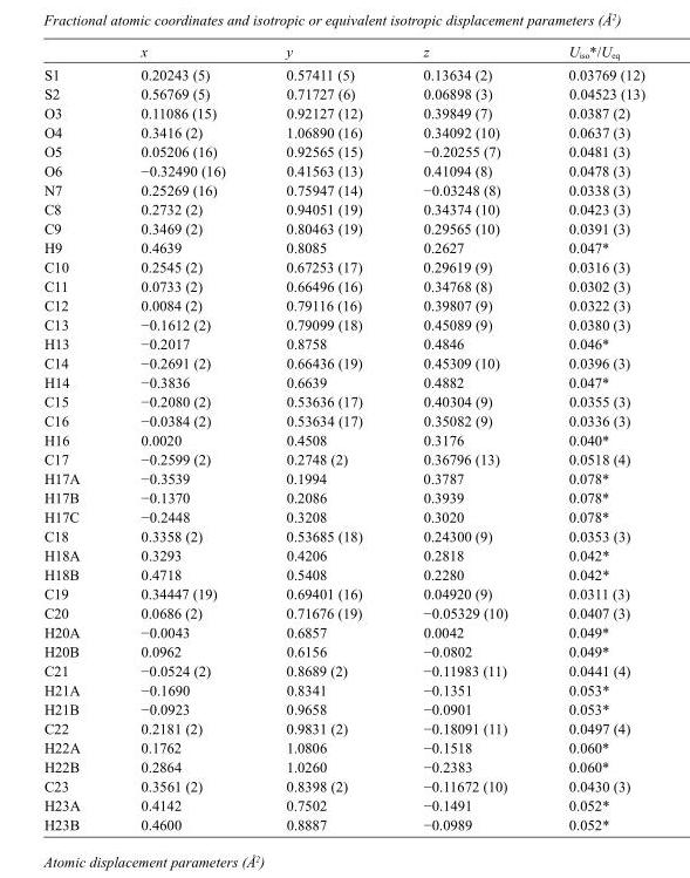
<table><thead><tr><td></td><td>x</td><td>y</td><td>z</td><td>U<sub>iso</sub>*/U<sub>eq</sub></td></tr></thead><tbody><tr><td>S1</td><td>0.20243 (5)</td><td>0.57411 (5)</td><td>0.13634 (2)</td><td>0.03769 (12)</td></tr><tr><td>S2</td><td>0.56769 (5)</td><td>0.71727 (6)</td><td>0.06898 (3)</td><td>0.04523 (13)</td></tr><tr><td>O3</td><td>0.11086 (15)</td><td>0.92127 (12)</td><td>0.39849 (7)</td><td>0.0387 (2)</td></tr><tr><td>O4</td><td>0.3416 (2)</td><td>1.06890 (16)</td><td>0.34092 (10)</td><td>0.0637 (3)</td></tr><tr><td>O5</td><td>0.05206 (16)</td><td>0.92565 (15)</td><td>−0.20255 (7)</td><td>0.0481 (3)</td></tr><tr><td>O6</td><td>−0.32490 (16)</td><td>0.41563 (13)</td><td>0.41094 (8)</td><td>0.0478 (3)</td></tr><tr><td>N7</td><td>0.25269 (16)</td><td>0.75947 (14)</td><td>−0.03248 (8)</td><td>0.0338 (3)</td></tr><tr><td>C8</td><td>0.2732 (2)</td><td>0.94051 (19)</td><td>0.34374 (10)</td><td>0.0423 (3)</td></tr><tr><td>C9</td><td>0.3469 (2)</td><td>0.80463 (19)</td><td>0.29565 (10)</td><td>0.0391 (3)</td></tr><tr><td>H9</td><td>0.4639</td><td>0.8085</td><td>0.2627</td><td>0.047*</td></tr><tr><td>C10</td><td>0.2545 (2)</td><td>0.67253 (17)</td><td>0.29619 (9)</td><td>0.0316 (3)</td></tr><tr><td>C11</td><td>0.0733 (2)</td><td>0.66496 (16)</td><td>0.34768 (8)</td><td>0.0302 (3)</td></tr><tr><td>C12</td><td>0.0084 (2)</td><td>0.79116 (16)</td><td>0.39807 (9)</td><td>0.0322 (3)</td></tr><tr><td>C13</td><td>−0.1612 (2)</td><td>0.79099 (18)</td><td>0.45089 (9)</td><td>0.0380 (3)</td></tr><tr><td>H13</td><td>−0.2017</td><td>0.8758</td><td>0.4846</td><td>0.046*</td></tr><tr><td>C14</td><td>−0.2691 (2)</td><td>0.66436 (19)</td><td>0.45309 (10)</td><td>0.0396 (3)</td></tr><tr><td>H14</td><td>−0.3836</td><td>0.6639</td><td>0.4882</td><td>0.047*</td></tr><tr><td>C15</td><td>−0.2080 (2)</td><td>0.53636 (17)</td><td>0.40304 (9)</td><td>0.0355 (3)</td></tr><tr><td>C16</td><td>−0.0384 (2)</td><td>0.53634 (17)</td><td>0.35082 (9)</td><td>0.0336 (3)</td></tr><tr><td>H16</td><td>0.0020</td><td>0.4508</td><td>0.3176</td><td>0.040*</td></tr><tr><td>C17</td><td>−0.2599 (2)</td><td>0.2748 (2)</td><td>0.36796 (13)</td><td>0.0518 (4)</td></tr><tr><td>H17A</td><td>−0.3539</td><td>0.1994</td><td>0.3787</td><td>0.078*</td></tr><tr><td>H17B</td><td>−0.1370</td><td>0.2086</td><td>0.3939</td><td>0.078*</td></tr><tr><td>H17C</td><td>−0.2448</td><td>0.3208</td><td>0.3020</td><td>0.078*</td></tr><tr><td>C18</td><td>0.3358 (2)</td><td>0.53685 (18)</td><td>0.24300 (9)</td><td>0.0353 (3)</td></tr><tr><td>H18A</td><td>0.3293</td><td>0.4206</td><td>0.2818</td><td>0.042*</td></tr><tr><td>H18B</td><td>0.4718</td><td>0.5408</td><td>0.2280</td><td>0.042*</td></tr><tr><td>C19</td><td>0.34447 (19)</td><td>0.69401 (16)</td><td>0.04920 (9)</td><td>0.0311 (3)</td></tr><tr><td>C20</td><td>0.0686 (2)</td><td>0.71676 (19)</td><td>−0.05329 (10)</td><td>0.0407 (3)</td></tr><tr><td>H20A</td><td>−0.0043</td><td>0.6857</td><td>0.0042</td><td>0.049*</td></tr><tr><td>H20B</td><td>0.0962</td><td>0.6156</td><td>−0.0802</td><td>0.049*</td></tr><tr><td>C21</td><td>−0.0524 (2)</td><td>0.8689 (2)</td><td>−0.11983 (11)</td><td>0.0441 (4)</td></tr><tr><td>H21A</td><td>−0.1690</td><td>0.8341</td><td>−0.1351</td><td>0.053*</td></tr><tr><td>H21B</td><td>−0.0923</td><td>0.9658</td><td>−0.0901</td><td>0.053*</td></tr><tr><td>C22</td><td>0.2181 (2)</td><td>0.9831 (2)</td><td>−0.18091 (11)</td><td>0.0497 (4)</td></tr><tr><td>H22A</td><td>0.1762</td><td>1.0806</td><td>−0.1518</td><td>0.060*</td></tr><tr><td>H22B</td><td>0.2864</td><td>1.0260</td><td>−0.2383</td><td>0.060*</td></tr><tr><td>C23</td><td>0.3561 (2)</td><td>0.8398 (2)</td><td>−0.11672 (10)</td><td>0.0430 (3)</td></tr><tr><td>H23A</td><td>0.4142</td><td>0.7502</td><td>−0.1491</td><td>0.052*</td></tr><tr><td>H23B</td><td>0.4600</td><td>0.8887</td><td>−0.0989</td><td>0.052*</td></tr></tbody></table>